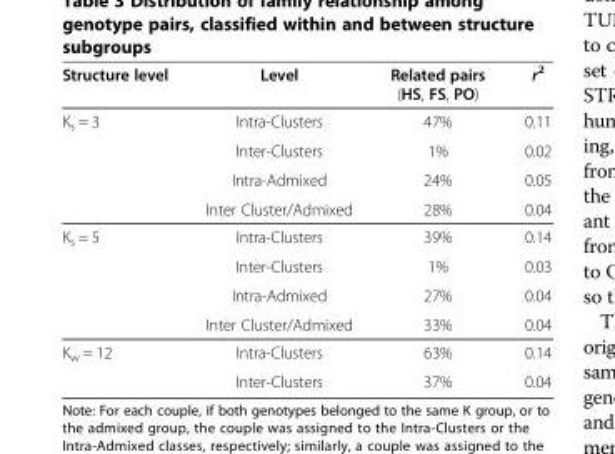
<table><thead><tr><td>Structure level</td><td>Level</td><td>Related pairs (HS, FS, PO)</td><td>r<sup>2</sup></td></tr></thead><tbody><tr><td rowspan="4">K<sub>s</sub> = 3</td><td>Intra-Clusters</td><td>47%</td><td>0.11</td></tr><tr><td>Inter-Clusters</td><td>1%</td><td>0.02</td></tr><tr><td>Intra-Admixed</td><td>24%</td><td>0.05</td></tr><tr><td>Inter Cluster/Admixed</td><td>28%</td><td>0.04</td></tr><tr><td rowspan="4">K<sub>s</sub> = 5</td><td>Intra-Clusters</td><td>39%</td><td>0.14</td></tr><tr><td>Inter-Clusters</td><td>1%</td><td>0.03</td></tr><tr><td>Intra-Admixed</td><td>27%</td><td>0.04</td></tr><tr><td>Inter Cluster/Admixed</td><td>33%</td><td>0.04</td></tr><tr><td rowspan="2">K<sub>w</sub> = 12</td><td>Intra-Clusters</td><td>63%</td><td>0.14</td></tr><tr><td>Inter-Clusters</td><td>37%</td><td>0.04</td></tr></tbody></table>